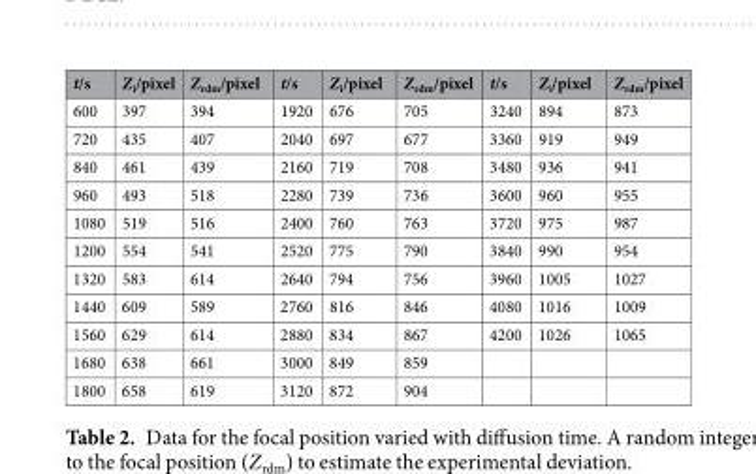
<table><thead><tr><td>t/s</td><td>Z<sub>i</sub>/pixel</td><td>Z<sub>rdm</sub>/pixel</td><td>t/s</td><td>Z<sub>i</sub>/pixel</td><td>Z<sub>rdm</sub>/pixel</td><td>t/s</td><td>Z<sub>i</sub>/pixel</td><td>Z<sub>rdm</sub>/pixel</td></tr></thead><tbody><tr><td>600</td><td>397</td><td>394</td><td>1920</td><td>676</td><td>705</td><td>3240</td><td>894</td><td>873</td></tr><tr><td>720</td><td>435</td><td>407</td><td>2040</td><td>697</td><td>677</td><td>3360</td><td>919</td><td>949</td></tr><tr><td>840</td><td>461</td><td>439</td><td>2160</td><td>719</td><td>708</td><td>3480</td><td>936</td><td>941</td></tr><tr><td>960</td><td>493</td><td>518</td><td>2280</td><td>739</td><td>736</td><td>3600</td><td>960</td><td>955</td></tr><tr><td>1080</td><td>519</td><td>516</td><td>2400</td><td>760</td><td>763</td><td>3720</td><td>975</td><td>987</td></tr><tr><td>1200</td><td>554</td><td>541</td><td>2520</td><td>775</td><td>790</td><td>3840</td><td>990</td><td>954</td></tr><tr><td>1320</td><td>583</td><td>614</td><td>2640</td><td>794</td><td>756</td><td>3960</td><td>1005</td><td>1027</td></tr><tr><td>1440</td><td>609</td><td>589</td><td>2760</td><td>816</td><td>846</td><td>4080</td><td>1016</td><td>1009</td></tr><tr><td>1560</td><td>629</td><td>614</td><td>2880</td><td>834</td><td>867</td><td>4200</td><td>1026</td><td>1065</td></tr><tr><td>1680</td><td>638</td><td>661</td><td>3000</td><td>849</td><td>859</td><td></td><td></td><td></td></tr><tr><td>1800</td><td>658</td><td>619</td><td>3120</td><td>872</td><td>904</td><td></td><td></td><td></td></tr></tbody></table>